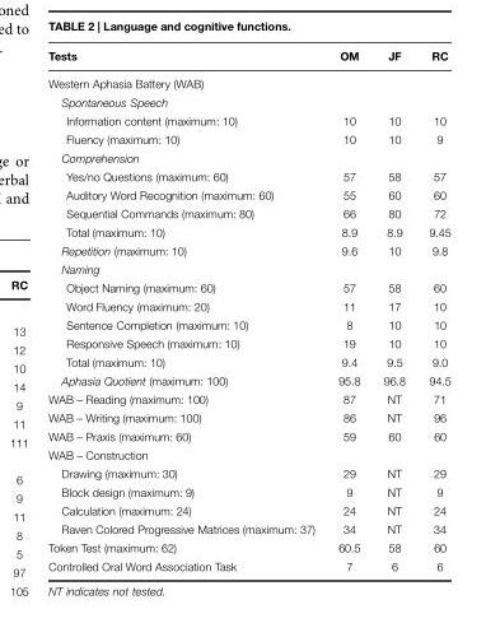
<table><thead><tr><td>Tests</td><td>OM</td><td>JF</td><td>RC</td></tr></thead><tbody><tr><td colspan="4">Western Aphasia Battery (WAB)</td></tr><tr><td colspan="4">Spontaneous Speech</td></tr><tr><td>Information content (maximum: 10)</td><td>10</td><td>10</td><td>10</td></tr><tr><td>Fluency (maximum: 10)</td><td>10</td><td>10</td><td>9</td></tr><tr><td colspan="4">Comprehension</td></tr><tr><td>Yes/no Questions (maximum: 60)</td><td>57</td><td>58</td><td>57</td></tr><tr><td>Auditory Word Recognition (maximum: 60)</td><td>55</td><td>60</td><td>60</td></tr><tr><td>Sequential Commands (maximum: 80)</td><td>66</td><td>80</td><td>72</td></tr><tr><td>Total (maximum: 10)</td><td>8.9</td><td>8.9</td><td>9.45</td></tr><tr><td>Repetition (maximum: 10)</td><td>9.6</td><td>10</td><td>9.8</td></tr><tr><td colspan="4">Naming</td></tr><tr><td>Object Naming (maximum: 60)</td><td>57</td><td>58</td><td>60</td></tr><tr><td>Word Fluency (maximum: 20)</td><td>11</td><td>17</td><td>10</td></tr><tr><td>Sentence Completion (maximum: 10)</td><td>8</td><td>10</td><td>10</td></tr><tr><td>Responsive Speech (maximum: 10)</td><td>19</td><td>10</td><td>10</td></tr><tr><td>Total (maximum: 10)</td><td>9.4</td><td>9.5</td><td>9.0</td></tr><tr><td>Aphasia Quotient (maximum: 100)</td><td>95.8</td><td>96.8</td><td>94.5</td></tr><tr><td>WAB – Reading (maximum: 100)</td><td>87</td><td>NT</td><td>71</td></tr><tr><td>WAB – Writing (maximum: 100)</td><td>86</td><td>NT</td><td>96</td></tr><tr><td>WAB – Praxis (maximum: 60)</td><td>59</td><td>60</td><td>60</td></tr><tr><td colspan="4">WAB – Construction</td></tr><tr><td>Drawing (maximum: 30)</td><td>29</td><td>NT</td><td>29</td></tr><tr><td>Block design (maximum: 9)</td><td>9</td><td>NT</td><td>9</td></tr><tr><td>Calculation (maximum: 24)</td><td>24</td><td>NT</td><td>24</td></tr><tr><td>Raven Colored Progressive Matrices (maximum: 37)</td><td>34</td><td>NT</td><td>34</td></tr><tr><td>Token Test (maximum: 62)</td><td>60.5</td><td>58</td><td>60</td></tr><tr><td>Controlled Oral Word Association Task</td><td>7</td><td>6</td><td>6</td></tr></tbody></table>